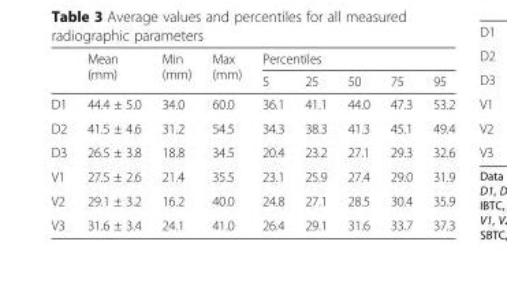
<table><thead><tr><td rowspan="2"></td><td rowspan="2">Mean (mm)</td><td rowspan="2">Min (mm)</td><td rowspan="2">Max (mm)</td><td colspan="5">Percentiles</td></tr><tr><td>5</td><td>25</td><td>50</td><td>75</td><td>95</td></tr></thead><tbody><tr><td>D1</td><td>44.4 ± 5.0</td><td>34.0</td><td>60.0</td><td>36.1</td><td>41.1</td><td>44.0</td><td>47.3</td><td>53.2</td></tr><tr><td>D2</td><td>41.5 ± 4.6</td><td>31.2</td><td>54.5</td><td>34.3</td><td>38.3</td><td>41.3</td><td>45.1</td><td>49.4</td></tr><tr><td>D3</td><td>26.5 ± 3.8</td><td>18.8</td><td>34.5</td><td>20.4</td><td>23.2</td><td>27.1</td><td>29.3</td><td>32.6</td></tr><tr><td>V1</td><td>27.5 ± 2.6</td><td>21.4</td><td>35.5</td><td>23.1</td><td>25.9</td><td>27.4</td><td>29.0</td><td>31.9</td></tr><tr><td>V2</td><td>29.1 ± 3.2</td><td>16.2</td><td>40.0</td><td>24.8</td><td>27.1</td><td>28.5</td><td>30.4</td><td>35.9</td></tr><tr><td>V3</td><td>31.6 ± 3.4</td><td>24.1</td><td>41.0</td><td>26.4</td><td>29.1</td><td>31.6</td><td>33.7</td><td>37.3</td></tr></tbody></table>